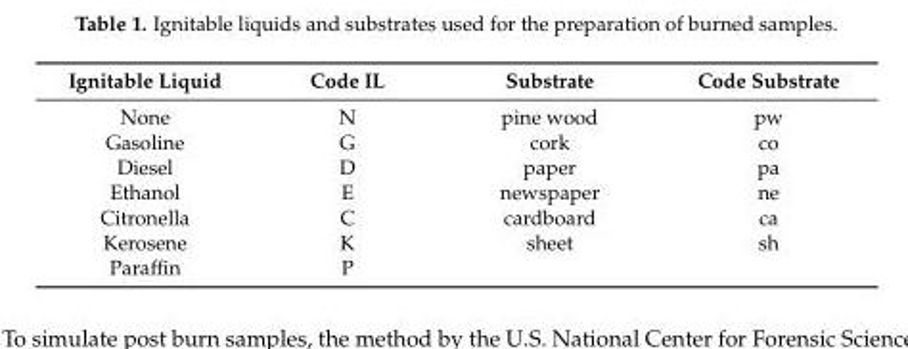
<table><thead><tr><td>Ignitable Liquid</td><td>Code IL</td><td>Substrate</td><td>Code Substrate</td></tr></thead><tbody><tr><td>None</td><td>N</td><td>pine wood</td><td>pw</td></tr><tr><td>Gasoline</td><td>G</td><td>cork</td><td>co</td></tr><tr><td>Diesel</td><td>D</td><td>paper</td><td>pa</td></tr><tr><td>Ethanol</td><td>E</td><td>newspaper</td><td>ne</td></tr><tr><td>Citronella</td><td>C</td><td>cardboard</td><td>ca</td></tr><tr><td>Kerosene</td><td>K</td><td>sheet</td><td>sh</td></tr><tr><td>Paraffin</td><td>P</td><td></td><td></td></tr></tbody></table>